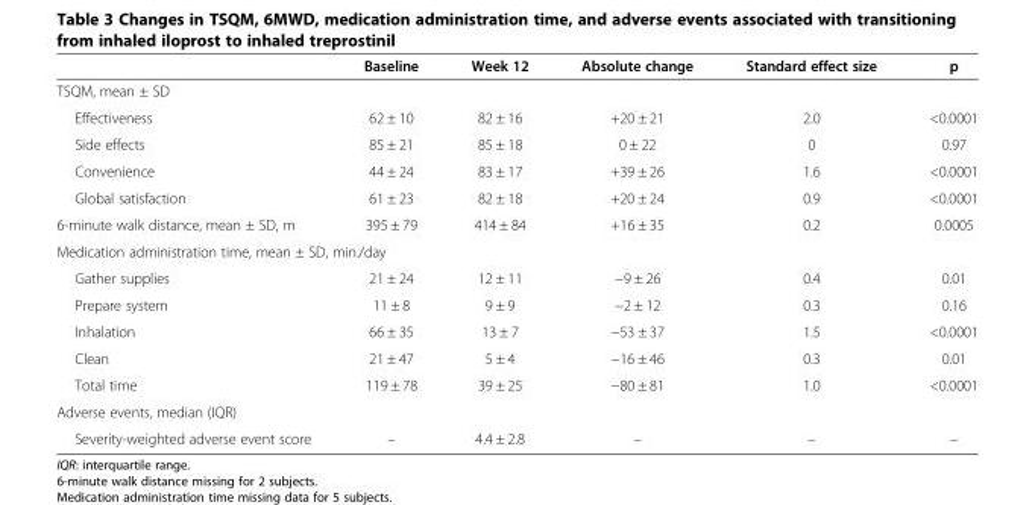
<table><thead><tr><td></td><td>Baseline</td><td>Week 12</td><td>Absolute change</td><td>Standard effect size</td><td>p</td></tr></thead><tbody><tr><td colspan="6">TSQM, mean ± SD</td></tr><tr><td>Effectiveness</td><td>62 ± 10</td><td>82 ± 16</td><td>+20 ± 21</td><td>2.0</td><td>&lt;0.0001</td></tr><tr><td>Side effects</td><td>85 ± 21</td><td>85 ± 18</td><td>0 ± 22</td><td>0</td><td>0.97</td></tr><tr><td>Convenience</td><td>44 ± 24</td><td>83 ± 17</td><td>+39 ± 26</td><td>1.6</td><td>&lt;0.0001</td></tr><tr><td>Global satisfaction</td><td>61 ± 23</td><td>82 ± 18</td><td>+20 ± 24</td><td>0.9</td><td>&lt;0.0001</td></tr><tr><td>6-minute walk distance, mean ± SD, m</td><td>395 ± 79</td><td>414 ± 84</td><td>+16 ± 35</td><td>0.2</td><td>0.0005</td></tr><tr><td colspan="6">Medication administration time, mean ± SD, min./day</td></tr><tr><td>Gather supplies</td><td>21 ± 24</td><td>12 ± 11</td><td>−9 ± 26</td><td>0.4</td><td>0.01</td></tr><tr><td>Prepare system</td><td>11 ± 8</td><td>9 ± 9</td><td>−2 ± 12</td><td>0.3</td><td>0.16</td></tr><tr><td>Inhalation</td><td>66 ± 35</td><td>13 ± 7</td><td>−53 ± 37</td><td>1.5</td><td>&lt;0.0001</td></tr><tr><td>Clean</td><td>21 ± 47</td><td>5 ± 4</td><td>−16 ± 46</td><td>0.3</td><td>0.01</td></tr><tr><td>Total time</td><td>119 ± 78</td><td>39 ± 25</td><td>−80 ± 81</td><td>1.0</td><td>&lt;0.0001</td></tr><tr><td colspan="6">Adverse events, median (IQR)</td></tr><tr><td>Severity-weighted adverse event score</td><td>–</td><td>4.4 ± 2.8</td><td>–</td><td>–</td><td>–</td></tr></tbody></table>